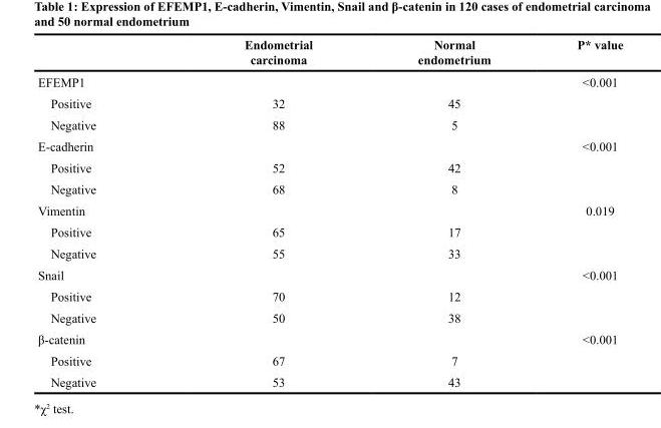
<table><thead><tr><td></td><td>Endometrial carcinoma</td><td>Normal endometrium</td><td>P* value</td></tr></thead><tbody><tr><td>EFEMP1</td><td></td><td></td><td>&lt;0.001</td></tr><tr><td>Positive</td><td>32</td><td>45</td><td></td></tr><tr><td>Negative</td><td>88</td><td>5</td><td></td></tr><tr><td>E-cadherin</td><td></td><td></td><td>&lt;0.001</td></tr><tr><td>Positive</td><td>52</td><td>42</td><td></td></tr><tr><td>Negative</td><td>68</td><td>8</td><td></td></tr><tr><td>Vimentin</td><td></td><td></td><td>0.019</td></tr><tr><td>Positive</td><td>65</td><td>17</td><td></td></tr><tr><td>Negative</td><td>55</td><td>33</td><td></td></tr><tr><td>Snail</td><td></td><td></td><td>&lt;0.001</td></tr><tr><td>Positive</td><td>70</td><td>12</td><td></td></tr><tr><td>Negative</td><td>50</td><td>38</td><td></td></tr><tr><td>β-catenin</td><td></td><td></td><td>&lt;0.001</td></tr><tr><td>Positive</td><td>67</td><td>7</td><td></td></tr><tr><td>Negative</td><td>53</td><td>43</td><td></td></tr></tbody></table>